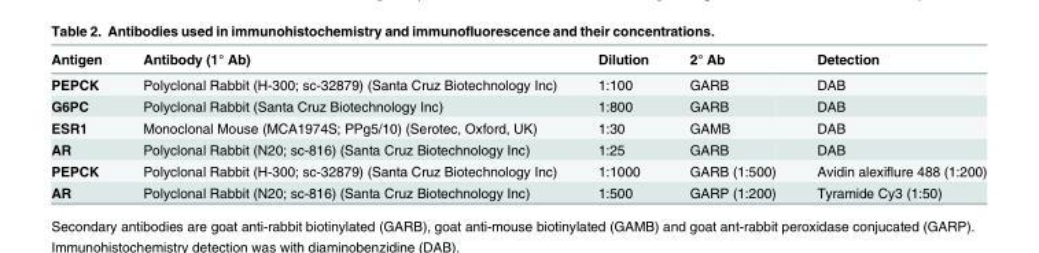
<table><thead><tr><td>Antigen</td><td>Antibody (1° Ab)</td><td>Dilution</td><td>2° Ab</td><td>Detection</td></tr></thead><tbody><tr><td>PEPCK</td><td>Polyclonal Rabbit (H-300; sc-32879) (Santa Cruz Biotechnology Inc)</td><td>1:100</td><td>GARB</td><td>DAB</td></tr><tr><td>G6PC</td><td>Polyclonal Rabbit (Santa Cruz Biotechnology Inc)</td><td>1:800</td><td>GARB</td><td>DAB</td></tr><tr><td>ESR1</td><td>Monoclonal Mouse (MCA1974S; PPg5/10) (Serotec, Oxford, UK)</td><td>1:30</td><td>GAMB</td><td>DAB</td></tr><tr><td>AR</td><td>Polyclonal Rabbit (N20; sc-816) (Santa Cruz Biotechnology Inc)</td><td>1:25</td><td>GARB</td><td>DAB</td></tr><tr><td>PEPCK</td><td>Polyclonal Rabbit (H-300; sc-32879) (Santa Cruz Biotechnology Inc)</td><td>1:1000</td><td>GARB (1:500)</td><td>Avidin alexiflure 488 (1:200)</td></tr><tr><td>AR</td><td>Polyclonal Rabbit (N20; sc-816) (Santa Cruz Biotechnology Inc)</td><td>1:500</td><td>GARP (1:200)</td><td>Tyramide Cy3 (1:50)</td></tr></tbody></table>